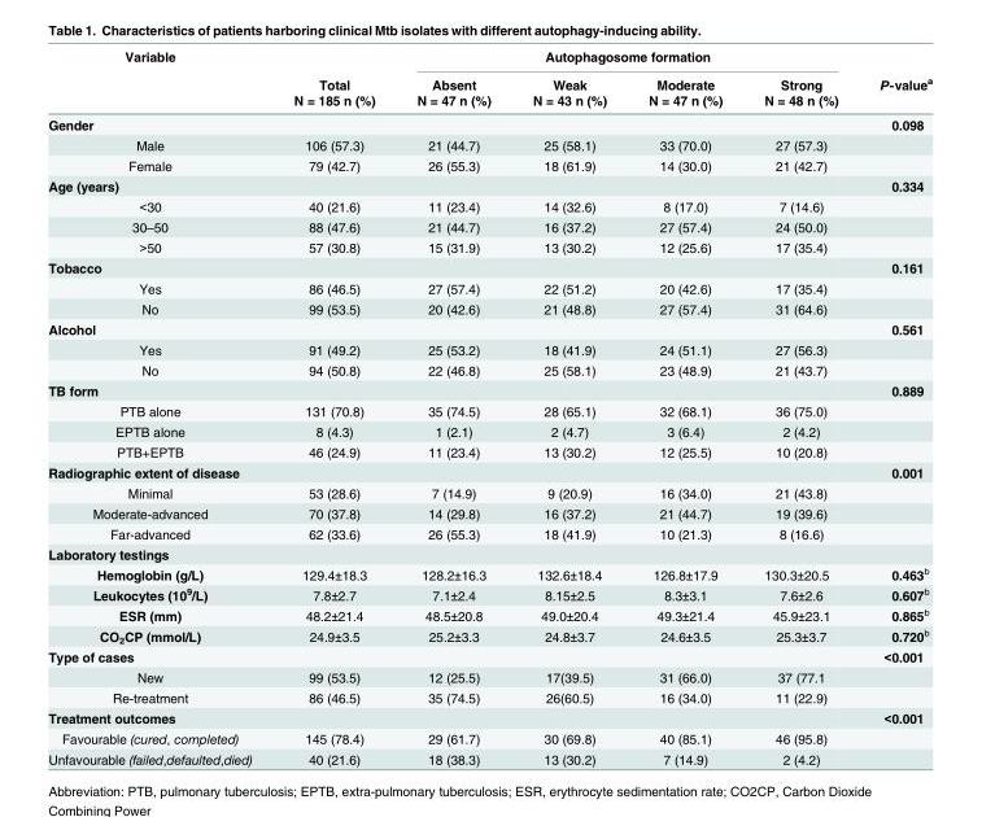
<table><thead><tr><td rowspan="3">Variable</td><td rowspan="3">Total N = 185 n (%)</td><td colspan="4">Autophagosome formation</td><td rowspan="3">P-value<sup>a</sup></td></tr><tr><td rowspan="2">Absent N = 47 n (%)</td><td rowspan="2">Weak N = 43 n (%)</td><td rowspan="2">Moderate N = 47 n (%)</td><td rowspan="2">Strong N = 48 n (%)</td></tr><tr></tr></thead><tbody><tr><td colspan="6">Gender</td><td>0.098</td></tr><tr><td>Male</td><td>106 (57.3)</td><td>21 (44.7)</td><td>25 (58.1)</td><td>33 (70.0)</td><td>27 (57.3)</td><td></td></tr><tr><td>Female</td><td>79 (42.7)</td><td>26 (55.3)</td><td>18 (61.9)</td><td>14 (30.0)</td><td>21 (42.7)</td><td></td></tr><tr><td colspan="6">Age (years)</td><td>0.334</td></tr><tr><td>&lt;30</td><td>40 (21.6)</td><td>11 (23.4)</td><td>14 (32.6)</td><td>8 (17.0)</td><td>7 (14.6)</td><td></td></tr><tr><td>30–50</td><td>88 (47.6)</td><td>21 (44.7)</td><td>16 (37.2)</td><td>27 (57.4)</td><td>24 (50.0)</td><td></td></tr><tr><td>&gt;50</td><td>57 (30.8)</td><td>15 (31.9)</td><td>13 (30.2)</td><td>12 (25.6)</td><td>17 (35.4)</td><td></td></tr><tr><td colspan="6">Tobacco</td><td>0.161</td></tr><tr><td>Yes</td><td>86 (46.5)</td><td>27 (57.4)</td><td>22 (51.2)</td><td>20 (42.6)</td><td>17 (35.4)</td><td></td></tr><tr><td>No</td><td>99 (53.5)</td><td>20 (42.6)</td><td>21 (48.8)</td><td>27 (57.4)</td><td>31 (64.6)</td><td></td></tr><tr><td colspan="6">Alcohol</td><td>0.561</td></tr><tr><td>Yes</td><td>91 (49.2)</td><td>25 (53.2)</td><td>18 (41.9)</td><td>24 (51.1)</td><td>27 (56.3)</td><td></td></tr><tr><td>No</td><td>94 (50.8)</td><td>22 (46.8)</td><td>25 (58.1)</td><td>23 (48.9)</td><td>21 (43.7)</td><td></td></tr><tr><td colspan="6">TB form</td><td>0.889</td></tr><tr><td>PTB alone</td><td>131 (70.8)</td><td>35 (74.5)</td><td>28 (65.1)</td><td>32 (68.1)</td><td>36 (75.0)</td><td></td></tr><tr><td>EPTB alone</td><td>8 (4.3)</td><td>1 (2.1)</td><td>2 (4.7)</td><td>3 (6.4)</td><td>2 (4.2)</td><td></td></tr><tr><td>PTB+EPTB</td><td>46 (24.9)</td><td>11 (23.4)</td><td>13 (30.2)</td><td>12 (25.5)</td><td>10 (20.8)</td><td></td></tr><tr><td colspan="6">Radiographic extent of disease</td><td>0.001</td></tr><tr><td>Minimal</td><td>53 (28.6)</td><td>7 (14.9)</td><td>9 (20.9)</td><td>16 (34.0)</td><td>21 (43.8)</td><td></td></tr><tr><td>Moderate-advanced</td><td>70 (37.8)</td><td>14 (29.8)</td><td>16 (37.2)</td><td>21 (44.7)</td><td>19 (39.6)</td><td></td></tr><tr><td>Far-advanced</td><td>62 (33.6)</td><td>26 (55.3)</td><td>18 (41.9)</td><td>10 (21.3)</td><td>8 (16.6)</td><td></td></tr><tr><td colspan="7">Laboratory testings</td></tr><tr><td>Hemoglobin (g/L)</td><td>129.4±18.3</td><td>128.2±16.3</td><td>132.6±18.4</td><td>126.8±17.9</td><td>130.3±20.5</td><td>0.463<sup>b</sup></td></tr><tr><td>Leukocytes (10<sup>9</sup>/L)</td><td>7.8±2.7</td><td>7.1±2.4</td><td>8.15±2.5</td><td>8.3±3.1</td><td>7.6±2.6</td><td>0.607<sup>b</sup></td></tr><tr><td>ESR (mm)</td><td>48.2±21.4</td><td>48.5±20.8</td><td>49.0±20.4</td><td>49.3±21.4</td><td>45.9±23.1</td><td>0.865<sup>b</sup></td></tr><tr><td>CO<sub>2</sub>CP (mmol/L)</td><td>24.9±3.5</td><td>25.2±3.3</td><td>24.8±3.7</td><td>24.6±3.5</td><td>25.3±3.7</td><td>0.720<sup>b</sup></td></tr><tr><td colspan="6">Type of cases</td><td>&lt;0.001</td></tr><tr><td>New</td><td>99 (53.5)</td><td>12 (25.5)</td><td>17(39.5)</td><td>31 (66.0)</td><td>37 (77.1</td><td></td></tr><tr><td>Re-treatment</td><td>86 (46.5)</td><td>35 (74.5)</td><td>26(60.5)</td><td>16 (34.0)</td><td>11 (22.9)</td><td></td></tr><tr><td colspan="6">Treatment outcomes</td><td>&lt;0.001</td></tr><tr><td>Favourable (cured, completed)</td><td>145 (78.4)</td><td>29 (61.7)</td><td>30 (69.8)</td><td>40 (85.1)</td><td>46 (95.8)</td><td></td></tr><tr><td>Unfavourable (failed,defaulted,died)</td><td>40 (21.6)</td><td>18 (38.3)</td><td>13 (30.2)</td><td>7 (14.9)</td><td>2 (4.2)</td><td></td></tr></tbody></table>